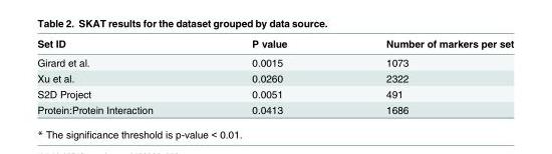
<table><thead><tr><td>Set ID</td><td>P value</td><td>Number of markers per set</td></tr></thead><tbody><tr><td>Girard et al.</td><td>0.0015</td><td>1073</td></tr><tr><td>Xu et al.</td><td>0.0260</td><td>2322</td></tr><tr><td>S2D Project</td><td>0.0051</td><td>491</td></tr><tr><td>Protein:Protein Interaction</td><td>0.0413</td><td>1686</td></tr></tbody></table>